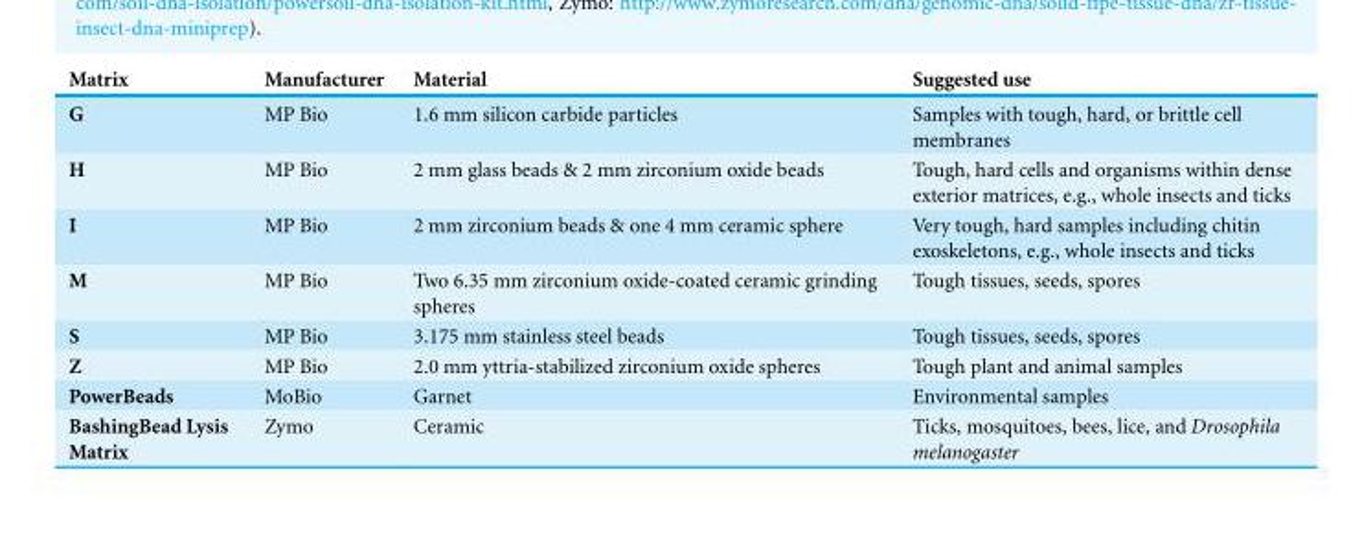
<table><thead><tr><td>Matrix</td><td>Manufacturer</td><td>Material</td><td>Suggested use</td></tr></thead><tbody><tr><td>G</td><td>MP Bio</td><td>1.6 mm silicon carbide particles</td><td>Samples with tough, hard, or brittle cell membranes</td></tr><tr><td>H</td><td>MP Bio</td><td>2 mm glass beads &amp; 2 mm zirconium oxide beads</td><td>Tough, hard cells and organisms within dense exterior matrices, e.g., whole insects and ticks</td></tr><tr><td>I</td><td>MP Bio</td><td>2 mm zirconium beads &amp; one 4 mm ceramic sphere</td><td>Very tough, hard samples including chitin exoskeletons, e.g., whole insects and ticks</td></tr><tr><td>M</td><td>MP Bio</td><td>Two 6.35 mm zirconium oxide-coated ceramic grinding spheres</td><td>Tough tissues, seeds, spores</td></tr><tr><td>S</td><td>MP Bio</td><td>3.175 mm stainless steel beads</td><td>Tough tissues, seeds, spores</td></tr><tr><td>Z</td><td>MP Bio</td><td>2.0 mm yttria-stabilized zirconium oxide spheres</td><td>Tough plant and animal samples</td></tr><tr><td>PowerBeads</td><td>MoBio</td><td>Garnet</td><td>Environmental samples</td></tr><tr><td>BashingBead Lysis Matrix</td><td>Zymo</td><td>Ceramic</td><td>Ticks, mosquitoes, bees, lice, and Drosophila melanogaster</td></tr></tbody></table>